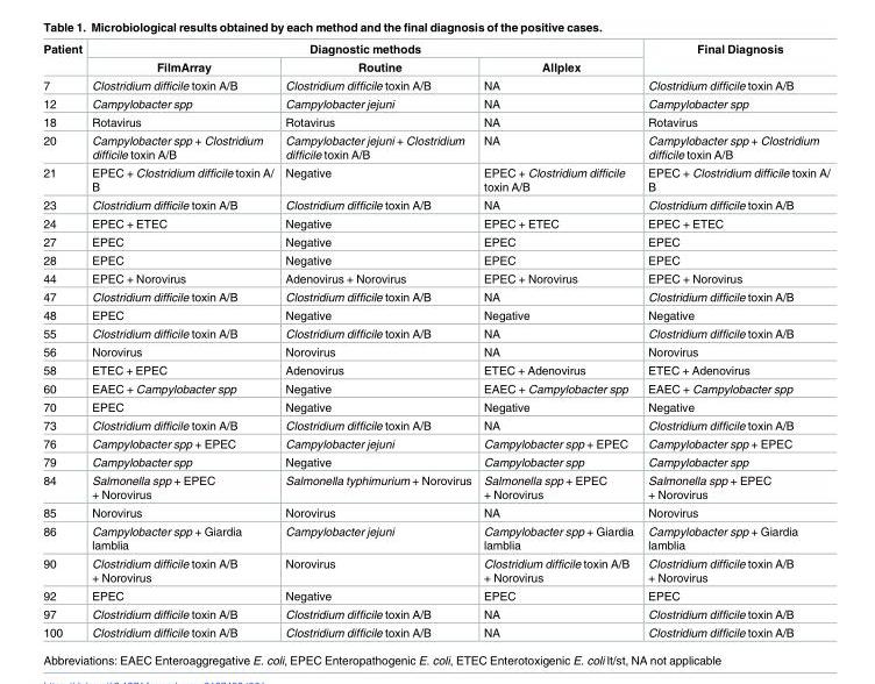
<table><thead><tr><td rowspan="2">Patient</td><td colspan="3">Diagnostic methods</td><td rowspan="2">Final Diagnosis</td></tr><tr><td>FilmArray</td><td>Routine</td><td>Allplex</td></tr></thead><tbody><tr><td>7</td><td>Clostridium difficile toxin A/B</td><td>Clostridium difficile toxin A/B</td><td>NA</td><td>Clostridium difficile toxin A/B</td></tr><tr><td>12</td><td>Campylobacter spp</td><td>Campylobacter jejuni</td><td>NA</td><td>Campylobacter spp</td></tr><tr><td>18</td><td>Rotavirus</td><td>Rotavirus</td><td>NA</td><td>Rotavirus</td></tr><tr><td>20</td><td>Campylobacter spp + Clostridium difficile toxin A/B</td><td>Campylobacter jejuni + Clostridium difficile toxin A/B</td><td>NA</td><td>Campylobacter spp + Clostridium difficile toxin A/B</td></tr><tr><td>21</td><td>EPEC + Clostridium difficile toxin A/ B</td><td>Negative</td><td>EPEC + Clostridium difficile toxin A/B</td><td>EPEC + Clostridium difficile toxin A/ B</td></tr><tr><td>23</td><td>Clostridium difficile toxin A/B</td><td>Clostridium difficile toxin A/B</td><td>NA</td><td>Clostridium difficile toxin A/B</td></tr><tr><td>24</td><td>EPEC + ETEC</td><td>Negative</td><td>EPEC + ETEC</td><td>EPEC + ETEC</td></tr><tr><td>27</td><td>EPEC</td><td>Negative</td><td>EPEC</td><td>EPEC</td></tr><tr><td>28</td><td>EPEC</td><td>Negative</td><td>EPEC</td><td>EPEC</td></tr><tr><td>44</td><td>EPEC + Norovirus</td><td>Adenovirus + Norovirus</td><td>EPEC + Norovirus</td><td>EPEC + Norovirus</td></tr><tr><td>47</td><td>Clostridium difficile toxin A/B</td><td>Clostridium difficile toxin A/B</td><td>NA</td><td>Clostridium difficile toxin A/B</td></tr><tr><td>48</td><td>EPEC</td><td>Negative</td><td>Negative</td><td>Negative</td></tr><tr><td>55</td><td>Clostridium difficile toxin A/B</td><td>Clostridium difficile toxin A/B</td><td>NA</td><td>Clostridium difficile toxin A/B</td></tr><tr><td>56</td><td>Norovirus</td><td>Norovirus</td><td>NA</td><td>Norovirus</td></tr><tr><td>58</td><td>ETEC + EPEC</td><td>Adenovirus</td><td>ETEC + Adenovirus</td><td>ETEC + Adenovirus</td></tr><tr><td>60</td><td>EAEC + Campylobacter spp</td><td>Negative</td><td>EAEC + Campylobacter spp</td><td>EAEC + Campylobacter spp</td></tr><tr><td>70</td><td>EPEC</td><td>Negative</td><td>Negative</td><td>Negative</td></tr><tr><td>73</td><td>Clostridium difficile toxin A/B</td><td>Clostridium difficile toxin A/B</td><td>NA</td><td>Clostridium difficile toxin A/B</td></tr><tr><td>76</td><td>Campylobacter spp + EPEC</td><td>Campylobacter jejuni</td><td>Campylobacter spp + EPEC</td><td>Campylobacter spp + EPEC</td></tr><tr><td>79</td><td>Campylobacter spp</td><td>Negative</td><td>Campylobacter spp</td><td>Campylobacter spp</td></tr><tr><td>84</td><td>Salmonella spp + EPEC + Norovirus</td><td>Salmonella typhimurium + Norovirus</td><td>Salmonella spp + EPEC + Norovirus</td><td>Salmonella spp + EPEC + Norovirus</td></tr><tr><td>85</td><td>Norovirus</td><td>Norovirus</td><td>NA</td><td>Norovirus</td></tr><tr><td>86</td><td>Campylobacter spp + Giardia lamblia</td><td>Campylobacter jejuni</td><td>Campylobacter spp + Giardia lamblia</td><td>Campylobacter spp + Giardia lamblia</td></tr><tr><td>90</td><td>Clostridium difficile toxin A/B + Norovirus</td><td>Norovirus</td><td>Clostridium difficile toxin A/B + Norovirus</td><td>Clostridium difficile toxin A/B + Norovirus</td></tr><tr><td>92</td><td>EPEC</td><td>Negative</td><td>EPEC</td><td>EPEC</td></tr><tr><td>97</td><td>Clostridium difficile toxin A/B</td><td>Clostridium difficile toxin A/B</td><td>NA</td><td>Clostridium difficile toxin A/B</td></tr><tr><td>100</td><td>Clostridium difficile toxin A/B</td><td>Clostridium difficile toxin A/B</td><td>NA</td><td>Clostridium difficile toxin A/B</td></tr></tbody></table>